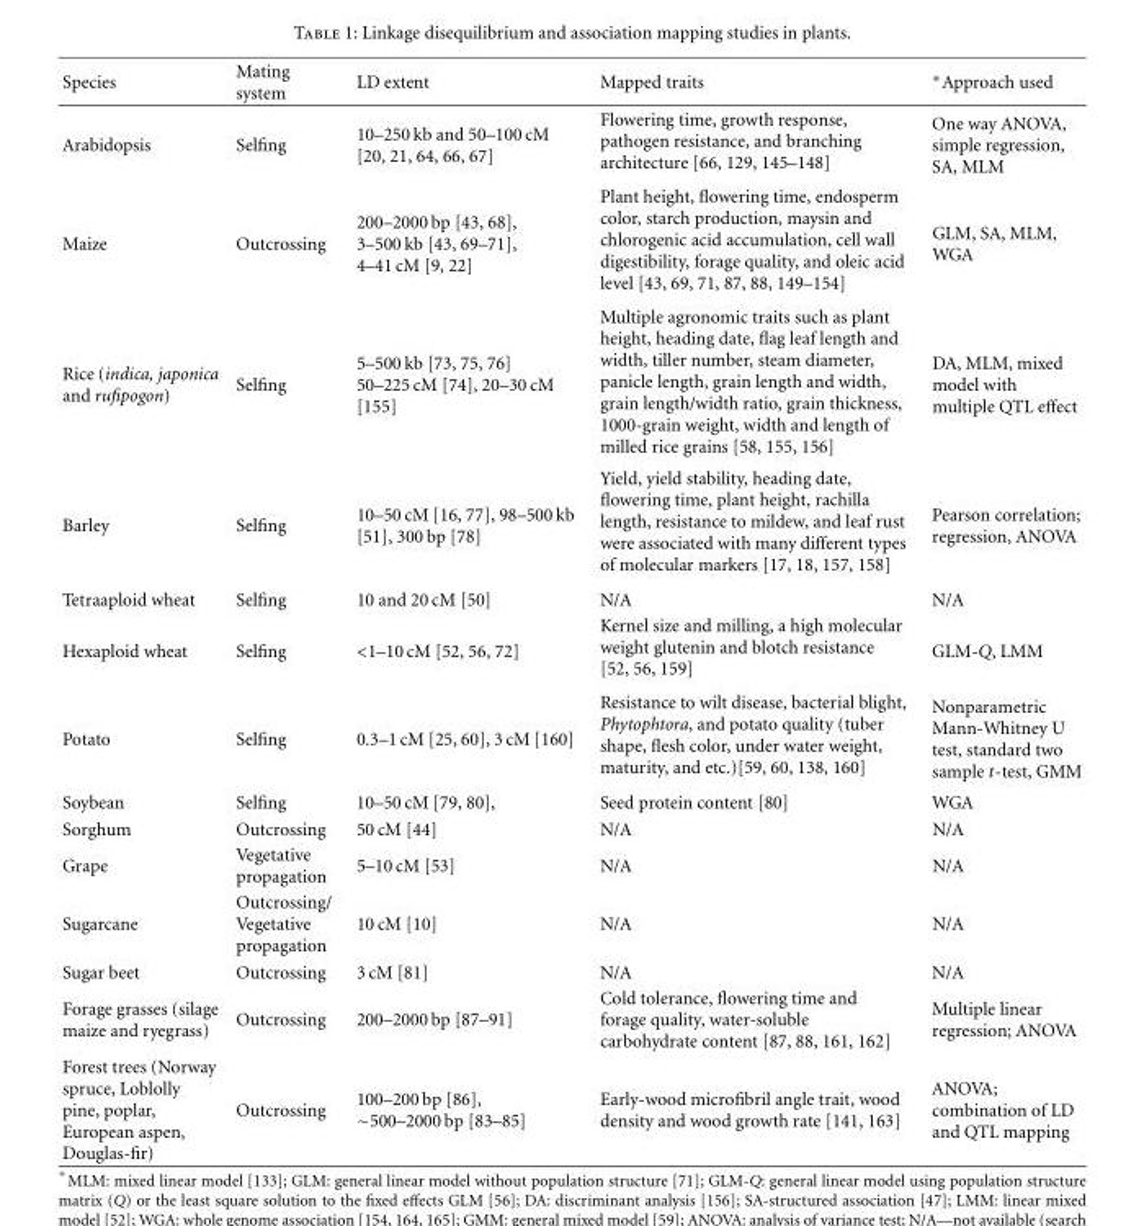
<table><thead><tr><td>Species</td><td>Mating system</td><td>LD extent</td><td>Mapped traits</td><td>∗Approach used</td></tr></thead><tbody><tr><td>Arabidopsis</td><td>Selfing</td><td>10–250 kb and 50–100 cM [20, 21, 64, 66, 67]</td><td>Flowering time, growth response, pathogen resistance, and branching architecture [66, 129, 145–148]</td><td>One way ANOVA, simple regression, SA, MLM</td></tr><tr><td>Maize</td><td>Outcrossing</td><td>200–2000 bp [43, 68], 3–500 kb [43, 69–71], 4–41 cM [9, 22]</td><td>Plant height, flowering time, endosperm color, starch production, maysin and chlorogenic acid accumulation, cell wall digestibility, forage quality, and oleic acid level [43, 69, 71, 87, 88, 149–154]</td><td>GLM, SA, MLM, WGA</td></tr><tr><td>Rice (indica, japonica and rufipogon)</td><td>Selfing</td><td>5–500 kb [73, 75, 76] 50–225 cM [74], 20–30 cM [155]</td><td>Multiple agronomic traits such as plant height, heading date, flag leaf length and width, tiller number, steam diameter, panicle length, grain length and width, grain length/width ratio, grain thickness, 1000-grain weight, width and length of milled rice grains [58, 155, 156]</td><td>DA, MLM, mixed model with multiple QTL effect</td></tr><tr><td>Barley</td><td>Selfing</td><td>10–50 cM [16, 77], 98–500 kb [51], 300 bp [78]</td><td>Yield, yield stability, heading date, flowering time, plant height, rachilla length, resistance to mildew, and leaf rust were associated with many different types of molecular markers [17, 18, 157, 158]</td><td>Pearson correlation; regression, ANOVA</td></tr><tr><td>Tetraaploid wheat</td><td>Selfing</td><td>10 and 20 cM [50]</td><td>N/A</td><td>N/A</td></tr><tr><td>Hexaploid wheat</td><td>Selfing</td><td>&lt;1–10 cM [52, 56, 72]</td><td>Kernel size and milling, a high molecular weight glutenin and blotch resistance [52, 56, 159]</td><td>GLM-Q, LMM</td></tr><tr><td>Potato</td><td>Selfing</td><td>0.3–1 cM [25, 60], 3 cM [160]</td><td>Resistance to wilt disease, bacterial blight, Phytophtora, and potato quality (tuber shape, flesh color, under water weight, maturity, and etc.)[59, 60, 138, 160]</td><td>Nonparametric Mann-Whitney U test, standard two sample t-test, GMM</td></tr><tr><td>Soybean</td><td>Selfing</td><td>10–50 cM [79, 80],</td><td>Seed protein content [80]</td><td>WGA</td></tr><tr><td>Sorghum</td><td>Outcrossing</td><td>50 cM [44]</td><td>N/A</td><td>N/A</td></tr><tr><td>Grape</td><td>Vegetative propagation</td><td>5–10 cM [53]</td><td>N/A</td><td>N/A</td></tr><tr><td>Sugarcane</td><td>Outcrossing/ Vegetative propagation</td><td>10 cM [10]</td><td>N/A</td><td>N/A</td></tr><tr><td>Sugar beet</td><td>Outcrossing</td><td>3 cM [81]</td><td>N/A</td><td>N/A</td></tr><tr><td>Forage grasses (silage maize and ryegrass)</td><td>Outcrossing</td><td>200–2000 bp [87–91]</td><td>Cold tolerance, flowering time and forage quality, water-soluble carbohydrate content [87, 88, 161, 162]</td><td>Multiple linear regression; ANOVA</td></tr><tr><td>Forest trees (Norway spruce, Loblolly pine, poplar, European aspen, Douglas-fir)</td><td>Outcrossing</td><td>100–200 bp [86], ∼500–2000 bp [83–85]</td><td>Early-wood microfibril angle trait, wood density and wood growth rate [141, 163]</td><td>ANOVA; combination of LD and QTL mapping</td></tr></tbody></table>